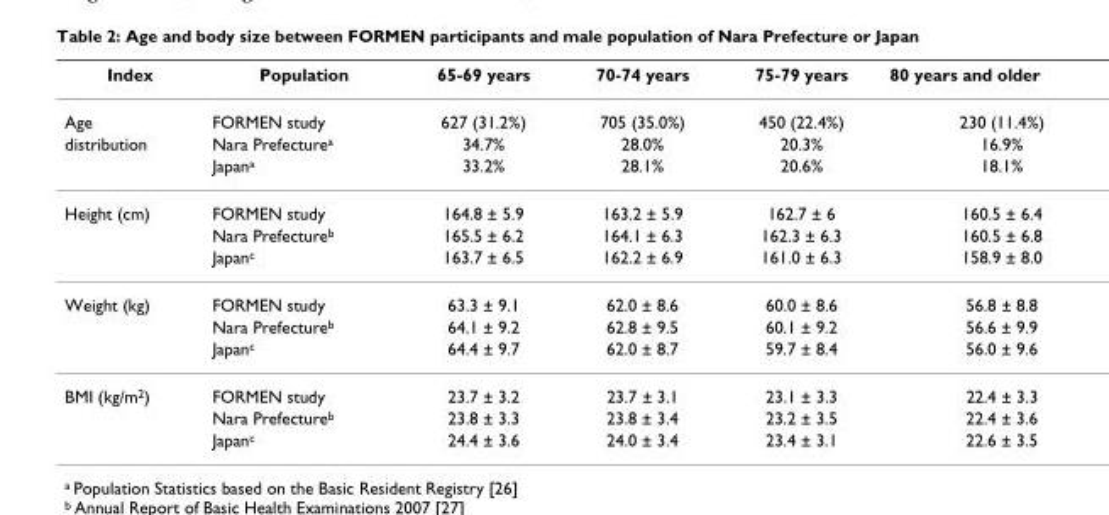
<table><thead><tr><td>Index</td><td>Population</td><td>65-69 years</td><td>70-74 years</td><td>75-79 years</td><td>80 years and older</td></tr></thead><tbody><tr><td>Age</td><td>FORMEN study</td><td>627 (31.2%)</td><td>705 (35.0%)</td><td>450 (22.4%)</td><td>230 (11.4%)</td></tr><tr><td rowspan="2">distribution</td><td>Nara Prefecture<sup>a</sup></td><td>34.7%</td><td>28.0%</td><td>20.3%</td><td>16.9%</td></tr><tr><td>Japan<sup>a</sup></td><td>33.2%</td><td>28.1%</td><td>20.6%</td><td>18.1%</td></tr><tr><td rowspan="3">Height (cm)</td><td>FORMEN study</td><td>164.8 ± 5.9</td><td>163.2 ± 5.9</td><td>162.7 ± 6</td><td>160.5 ± 6.4</td></tr><tr><td>Nara Prefecture<sup>b</sup></td><td>165.5 ± 6.2</td><td>164.1 ± 6.3</td><td>162.3 ± 6.3</td><td>160.5 ± 6.8</td></tr><tr><td>Japan<sup>c</sup></td><td>163.7 ± 6.5</td><td>162.2 ± 6.9</td><td>161.0 ± 6.3</td><td>158.9 ± 8.0</td></tr><tr><td rowspan="3">Weight (kg)</td><td>FORMEN study</td><td>63.3 ± 9.1</td><td>62.0 ± 8.6</td><td>60.0 ± 8.6</td><td>56.8 ± 8.8</td></tr><tr><td>Nara Prefecture<sup>b</sup></td><td>64.1 ± 9.2</td><td>62.8 ± 9.5</td><td>60.1 ± 9.2</td><td>56.6 ± 9.9</td></tr><tr><td>Japan<sup>c</sup></td><td>64.4 ± 9.7</td><td>62.0 ± 8.7</td><td>59.7 ± 8.4</td><td>56.0 ± 9.6</td></tr><tr><td rowspan="3">BMI (kg/m<sup>2</sup>)</td><td>FORMEN study</td><td>23.7 ± 3.2</td><td>23.7 ± 3.1</td><td>23.1 ± 3.3</td><td>22.4 ± 3.3</td></tr><tr><td>Nara Prefecture<sup>b</sup></td><td>23.8 ± 3.3</td><td>23.8 ± 3.4</td><td>23.2 ± 3.5</td><td>22.4 ± 3.6</td></tr><tr><td>Japan<sup>c</sup></td><td>24.4 ± 3.6</td><td>24.0 ± 3.4</td><td>23.4 ± 3.1</td><td>22.6 ± 3.5</td></tr></tbody></table>